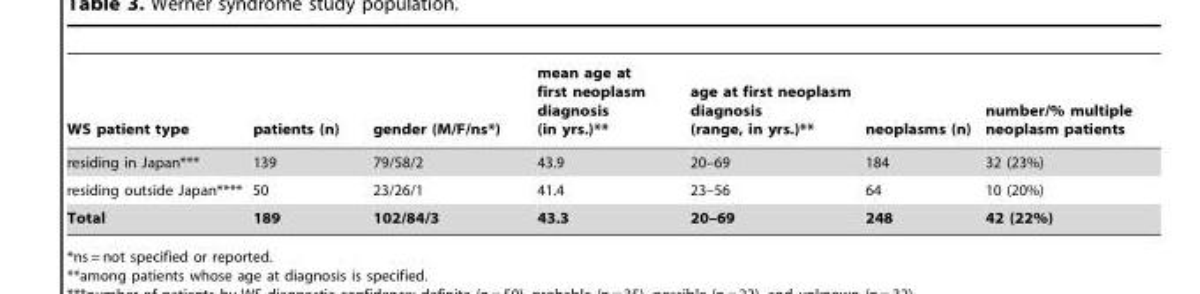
<table><thead><tr><td>WS patient type</td><td>patients (n)</td><td>gender (M/F/ns*)</td><td>mean age at first neoplasm diagnosis (in yrs.)**</td><td>age at first neoplasm diagnosis (range, in yrs.)**</td><td>neoplasms (n)</td><td>number/% multiple neoplasm patients</td></tr></thead><tbody><tr><td>residing in Japan***</td><td>139</td><td>79/58/2</td><td>43.9</td><td>20–69</td><td>184</td><td>32 (23%)</td></tr><tr><td>residing outside Japan****</td><td>50</td><td>23/26/1</td><td>41.4</td><td>23–56</td><td>64</td><td>10 (20%)</td></tr><tr><td>Total</td><td>189</td><td>102/84/3</td><td>43.3</td><td>20–69</td><td>248</td><td>42 (22%)</td></tr></tbody></table>